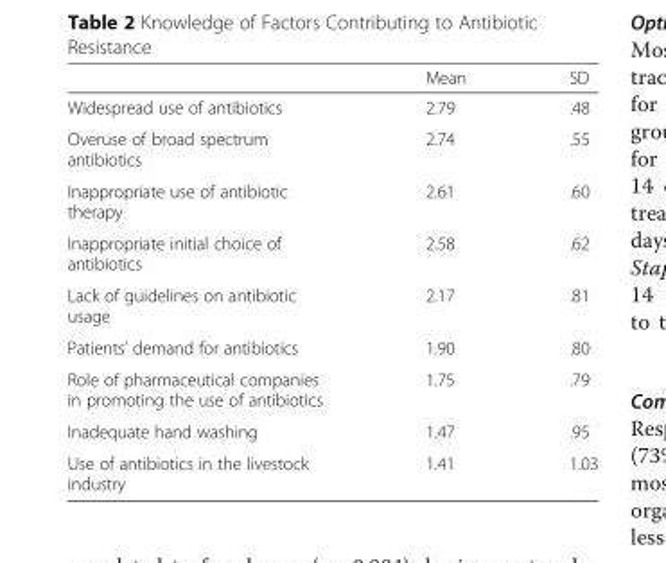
<table><thead><tr><td></td><td>Mean</td><td>SD</td></tr></thead><tbody><tr><td>Widespread use of antibiotics</td><td>2.79</td><td>.48</td></tr><tr><td>Overuse of broad spectrum antibiotics</td><td>2.74</td><td>.55</td></tr><tr><td>Inappropriate use of antibiotic therapy</td><td>2.61</td><td>.60</td></tr><tr><td>Inappropriate initial choice of antibiotics</td><td>2.58</td><td>.62</td></tr><tr><td>Lack of guidelines on antibiotic usage</td><td>2.17</td><td>.81</td></tr><tr><td>Patients’ demand for antibiotics</td><td>1.90</td><td>.80</td></tr><tr><td>Role of pharmaceutical companies in promoting the use of antibiotics</td><td>1.75</td><td>.79</td></tr><tr><td>Inadequate hand washing</td><td>1.47</td><td>.95</td></tr><tr><td>Use of antibiotics in the livestock industry</td><td>1.41</td><td>1.03</td></tr></tbody></table>